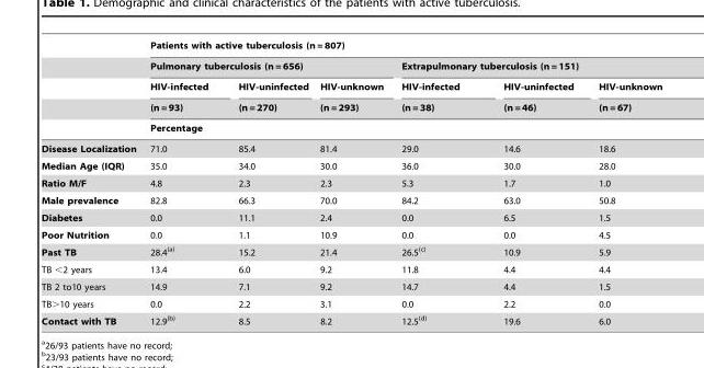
<table><thead><tr><td rowspan="5"></td><td colspan="6">Patients with active tuberculosis (n = 807)</td></tr><tr><td colspan="3">Pulmonary tuberculosis (n = 656)</td><td colspan="3">Extrapulmonary tuberculosis (n = 151)</td></tr><tr><td>HIV-infected</td><td>HIV-uninfected</td><td>HIV-unknown</td><td>HIV-infected</td><td>HIV-uninfected</td><td>HIV-unknown</td></tr><tr><td rowspan="2" colspan="6">(n = 93) (n = 270) (n = 293) (n = 38) (n = 46) (n = 67) Percentage</td></tr><tr></tr></thead><tbody><tr><td>Disease Localization</td><td>71.0</td><td>85.4</td><td>81.4</td><td>29.0</td><td>14.6</td><td>18.6</td></tr><tr><td>Median Age (IQR)</td><td>35.0</td><td>34.0</td><td>30.0</td><td>36.0</td><td>30.0</td><td>28.0</td></tr><tr><td>Ratio M/F</td><td>4.8</td><td>2.3</td><td>2.3</td><td>5.3</td><td>1.7</td><td>1.0</td></tr><tr><td>Male prevalence</td><td>82.8</td><td>66.3</td><td>70.0</td><td>84.2</td><td>63.0</td><td>50.8</td></tr><tr><td>Diabetes</td><td>0.0</td><td>11.1</td><td>2.4</td><td>0.0</td><td>6.5</td><td>1.5</td></tr><tr><td>Poor Nutrition</td><td>0.0</td><td>1.1</td><td>10.9</td><td>0.0</td><td>0.0</td><td>4.5</td></tr><tr><td>Past TB</td><td>28.4<sup>(a)</sup></td><td>15.2</td><td>21.4</td><td>26.5<sup>(c)</sup></td><td>10.9</td><td>5.9</td></tr><tr><td>TB &lt;2 years</td><td>13.4</td><td>6.0</td><td>9.2</td><td>11.8</td><td>4.4</td><td>4.4</td></tr><tr><td>TB 2 to10 years</td><td>14.9</td><td>7.1</td><td>9.2</td><td>14.7</td><td>4.4</td><td>1.5</td></tr><tr><td>TB&gt;10 years</td><td>0.0</td><td>2.2</td><td>3.1</td><td>0.0</td><td>2.2</td><td>0.0</td></tr><tr><td>Contact with TB</td><td>12.9<sup>(b)</sup></td><td>8.5</td><td>8.2</td><td>12.5<sup>(d)</sup></td><td>19.6</td><td>6.0</td></tr></tbody></table>